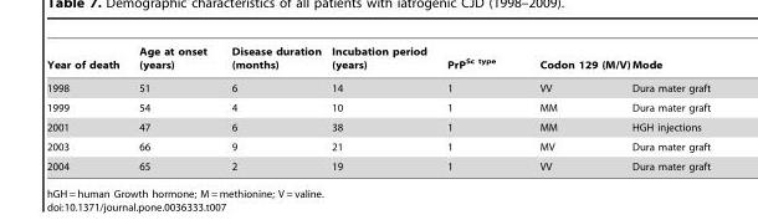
<table><thead><tr><td>Year of death</td><td>Age at onset (years)</td><td>Disease duration (months)</td><td>Incubation period (years)</td><td>PrP<sup>Sc type</sup></td><td>Codon 129 (M/V)</td><td>Mode</td></tr></thead><tbody><tr><td>1998</td><td>51</td><td>6</td><td>14</td><td>1</td><td>VV</td><td>Dura mater graft</td></tr><tr><td>1999</td><td>54</td><td>4</td><td>10</td><td>1</td><td>MM</td><td>Dura mater graft</td></tr><tr><td>2001</td><td>47</td><td>6</td><td>38</td><td>1</td><td>MM</td><td>HGH injections</td></tr><tr><td>2003</td><td>66</td><td>9</td><td>21</td><td>1</td><td>MV</td><td>Dura mater graft</td></tr><tr><td>2004</td><td>65</td><td>2</td><td>19</td><td>1</td><td>VV</td><td>Dura mater graft</td></tr></tbody></table>